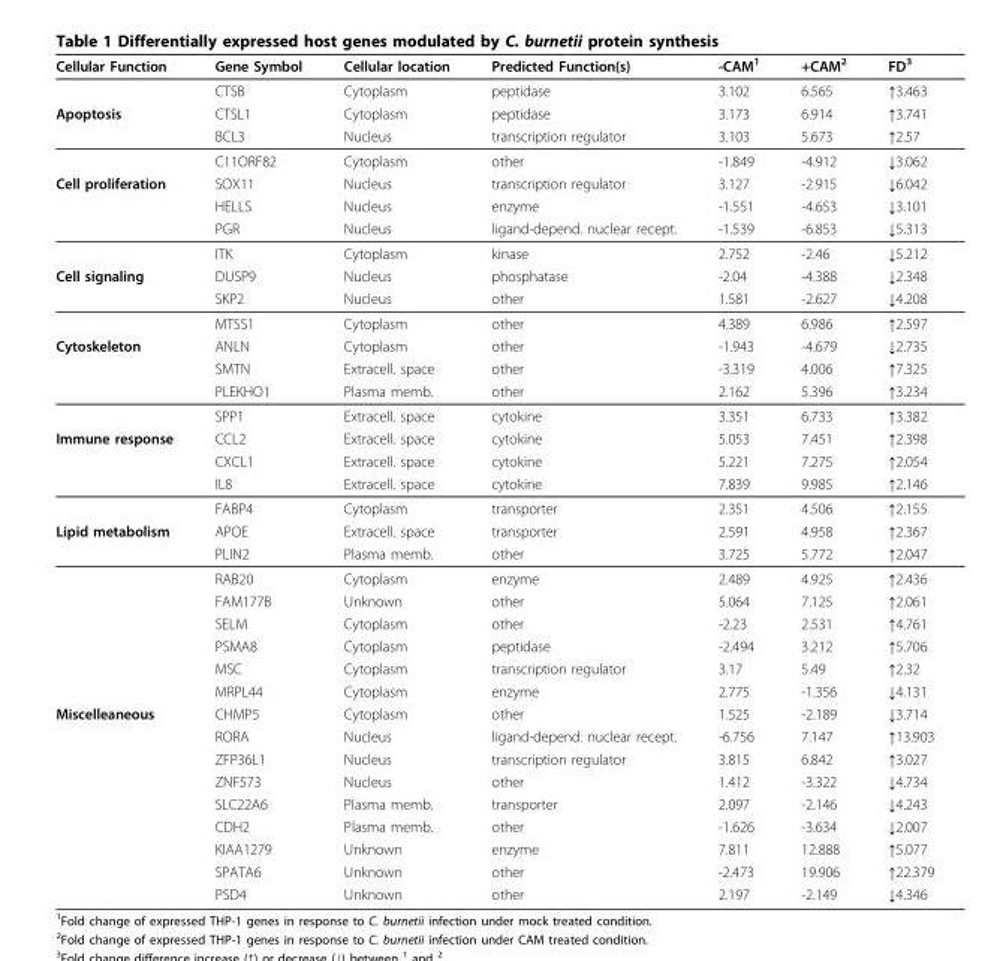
<table><thead><tr><td>Cellular Function</td><td>Gene Symbol</td><td>Cellular location</td><td>Predicted Function(s)</td><td>-CAM<sup>1</sup></td><td>+CAM<sup>2</sup></td><td>FD<sup>3</sup></td></tr></thead><tbody><tr><td></td><td>CTSB</td><td>Cytoplasm</td><td>peptidase</td><td>3.102</td><td>6.565</td><td>↑3.463</td></tr><tr><td rowspan="3">Apoptosis</td><td>CTSL1</td><td>Cytoplasm</td><td>peptidase</td><td>3.173</td><td>6.914</td><td>↑3.741</td></tr><tr><td>BCL3</td><td>Nucleus</td><td>transcription regulator</td><td>3.103</td><td>5.673</td><td>↑2.57</td></tr><tr><td>C11ORF82</td><td>Cytoplasm</td><td>other</td><td>-1.849</td><td>-4.912</td><td>↓3.062</td></tr><tr><td rowspan="4">Cell proliferation</td><td>SOX11</td><td>Nucleus</td><td>transcription regulator</td><td>3.127</td><td>-2.915</td><td>↓6.042</td></tr><tr><td>HELLS</td><td>Nucleus</td><td>enzyme</td><td>-1.551</td><td>-4.653</td><td>↓3.101</td></tr><tr><td>PGR</td><td>Nucleus</td><td>ligand-depend. nuclear recept.</td><td>-1.539</td><td>-6.853</td><td>↓5.313</td></tr><tr><td>ITK</td><td>Cytoplasm</td><td>kinase</td><td>2.752</td><td>-2.46</td><td>↓5.212</td></tr><tr><td rowspan="3">Cell signaling</td><td>DUSP9</td><td>Nucleus</td><td>phosphatase</td><td>-2.04</td><td>-4.388</td><td>↓2.348</td></tr><tr><td>SKP2</td><td>Nucleus</td><td>other</td><td>1.581</td><td>-2.627</td><td>↓4.208</td></tr><tr><td>MTSS1</td><td>Cytoplasm</td><td>other</td><td>4.389</td><td>6.986</td><td>↑2.597</td></tr><tr><td rowspan="4">Cytoskeleton</td><td>ANLN</td><td>Cytoplasm</td><td>other</td><td>-1.943</td><td>-4.679</td><td>↓2.735</td></tr><tr><td>SMTN</td><td>Extracell. space</td><td>other</td><td>-3.319</td><td>4.006</td><td>↑7.325</td></tr><tr><td>PLEKHO1</td><td>Plasma memb.</td><td>other</td><td>2.162</td><td>5.396</td><td>↑3.234</td></tr><tr><td>SPP1</td><td>Extracell. space</td><td>cytokine</td><td>3.351</td><td>6.733</td><td>↑3.382</td></tr><tr><td rowspan="4">Immune response</td><td>CCL2</td><td>Extracell. space</td><td>cytokine</td><td>5.053</td><td>7.451</td><td>↑2.398</td></tr><tr><td>CXCL1</td><td>Extracell. space</td><td>cytokine</td><td>5.221</td><td>7.275</td><td>↑2.054</td></tr><tr><td>IL8</td><td>Extracell. space</td><td>cytokine</td><td>7.839</td><td>9.985</td><td>↑2.146</td></tr><tr><td>FABP4</td><td>Cytoplasm</td><td>transporter</td><td>2.351</td><td>4.506</td><td>↑2.155</td></tr><tr><td rowspan="8">Lipid metabolism</td><td>APOE</td><td>Extracell. space</td><td>transporter</td><td>2.591</td><td>4.958</td><td>↑2.367</td></tr><tr><td>PLIN2</td><td>Plasma memb.</td><td>other</td><td>3.725</td><td>5.772</td><td>↑2.047</td></tr><tr><td>RAB20</td><td>Cytoplasm</td><td>enzyme</td><td>2.489</td><td>4.925</td><td>↑2.436</td></tr><tr><td>FAM177B</td><td>Unknown</td><td>other</td><td>5.064</td><td>7.125</td><td>↑2.061</td></tr><tr><td>SELM</td><td>Cytoplasm</td><td>other</td><td>-2.23</td><td>2.531</td><td>↑4.761</td></tr><tr><td>PSMA8</td><td>Cytoplasm</td><td>peptidase</td><td>-2.494</td><td>3.212</td><td>↑5.706</td></tr><tr><td>MSC</td><td>Cytoplasm</td><td>transcription regulator</td><td>3.17</td><td>5.49</td><td>↑2.32</td></tr><tr><td>MRPL44</td><td>Cytoplasm</td><td>enzyme</td><td>2.775</td><td>-1.356</td><td>↓4.131</td></tr><tr><td rowspan="9">Miscelleaneous</td><td>CHMP5</td><td>Cytoplasm</td><td>other</td><td>1.525</td><td>-2.189</td><td>↓3.714</td></tr><tr><td>RORA</td><td>Nucleus</td><td>ligand-depend. nuclear recept.</td><td>-6.756</td><td>7.147</td><td>↑13.903</td></tr><tr><td>ZFP36L1</td><td>Nucleus</td><td>transcription regulator</td><td>3.815</td><td>6.842</td><td>↑3.027</td></tr><tr><td>ZNF573</td><td>Nucleus</td><td>other</td><td>1.412</td><td>-3.322</td><td>↓4.734</td></tr><tr><td>SLC22A6</td><td>Plasma memb.</td><td>transporter</td><td>2.097</td><td>-2.146</td><td>↓4.243</td></tr><tr><td>CDH2</td><td>Plasma memb.</td><td>other</td><td>-1.626</td><td>-3.634</td><td>↓2.007</td></tr><tr><td>KIAA1279</td><td>Unknown</td><td>enzyme</td><td>7.811</td><td>12.888</td><td>↑5.077</td></tr><tr><td>SPATA6</td><td>Unknown</td><td>other</td><td>-2.473</td><td>19.906</td><td>↑22.379</td></tr><tr><td>PSD4</td><td>Unknown</td><td>other</td><td>2.197</td><td>-2.149</td><td>↓4.346</td></tr></tbody></table>